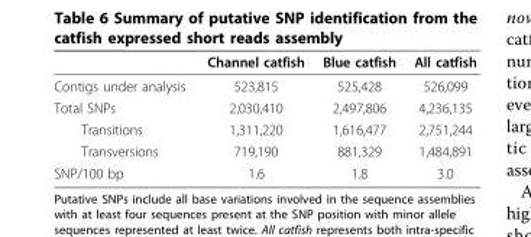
<table><thead><tr><td></td><td>Channel catfish</td><td>Blue catfish</td><td>All catfish</td></tr></thead><tbody><tr><td>Contigs under analysis</td><td>523,815</td><td>525,428</td><td>526,099</td></tr><tr><td>Total SNPs</td><td>2,030,410</td><td>2,497,806</td><td>4,236,135</td></tr><tr><td>Transitions</td><td>1,311,220</td><td>1,616,477</td><td>2,751,244</td></tr><tr><td>Transversions</td><td>719,190</td><td>881,329</td><td>1,484,891</td></tr><tr><td>SNP/100 bp</td><td>1.6</td><td>1.8</td><td>3.0</td></tr></tbody></table>